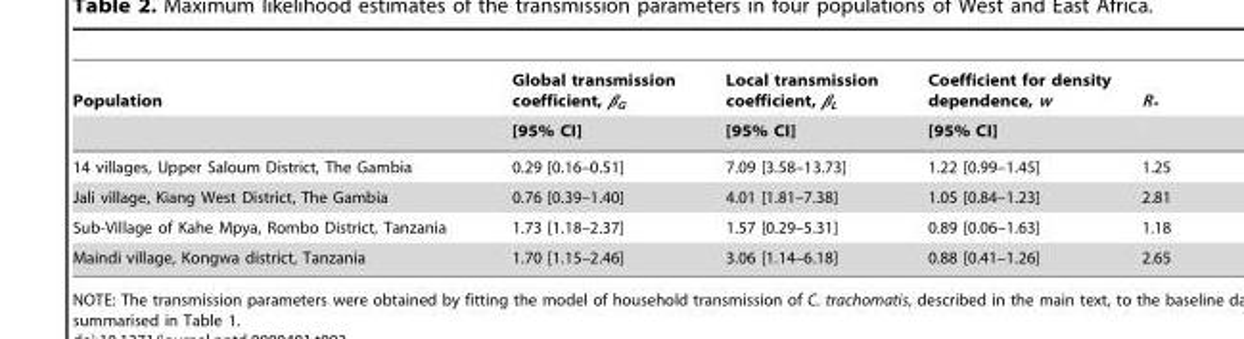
<table><thead><tr><td rowspan="2">Population</td><td rowspan="2">Global transmission coefficient, β<sub>G</sub> [95% CI]</td><td rowspan="2">Local transmission coefficient, β<sub>L</sub> [95% CI]</td><td rowspan="2">Coefficient for density dependence, w [95% CI]</td><td rowspan="2">R<sub>*</sub></td></tr><tr></tr></thead><tbody><tr><td>14 villages, Upper Saloum District, The Gambia</td><td>0.29 [0.16–0.51]</td><td>7.09 [3.58–13.73]</td><td>1.22 [0.99–1.45]</td><td>1.25</td></tr><tr><td>Jali village, Kiang West District, The Gambia</td><td>0.76 [0.39–1.40]</td><td>4.01 [1.81–7.38]</td><td>1.05 [0.84–1.23]</td><td>2.81</td></tr><tr><td>Sub-Village of Kahe Mpya, Rombo District, Tanzania</td><td>1.73 [1.18–2.37]</td><td>1.57 [0.29–5.31]</td><td>0.89 [0.06–1.63]</td><td>1.18</td></tr><tr><td>Maindi village, Kongwa district, Tanzania</td><td>1.70 [1.15–2.46]</td><td>3.06 [1.14–6.18]</td><td>0.88 [0.41–1.26]</td><td>2.65</td></tr></tbody></table>